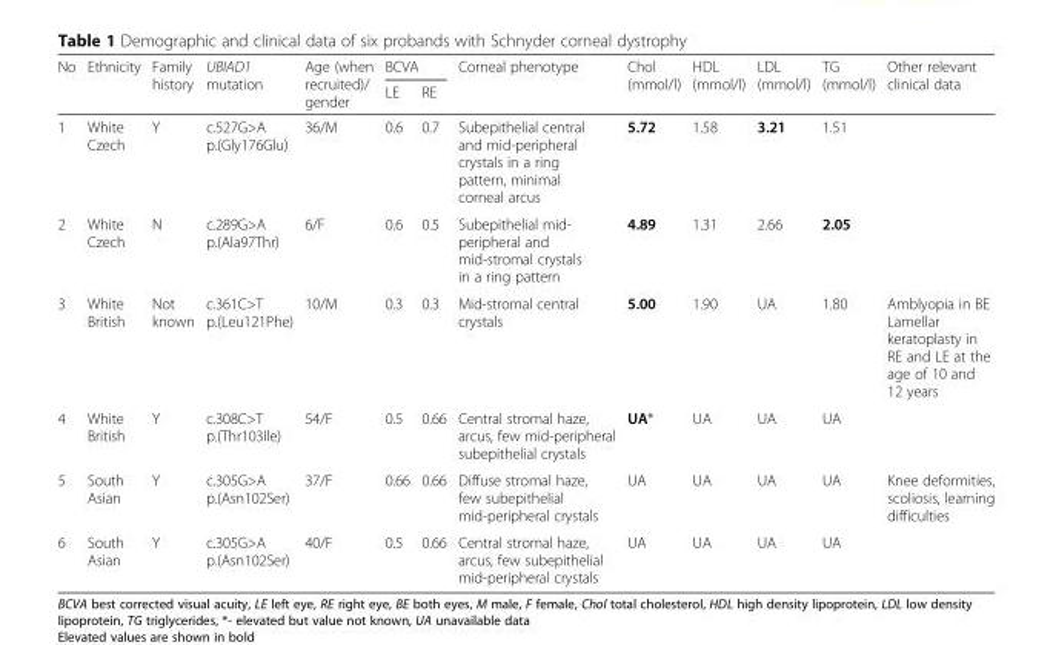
<table><thead><tr><td rowspan="2">No</td><td rowspan="2">Ethnicity</td><td rowspan="2">Family history</td><td rowspan="2">UBIAD1 mutation</td><td rowspan="2">Age (when recruited)/ gender</td><td colspan="2">BCVA</td><td rowspan="2">Corneal phenotype</td><td rowspan="2">Chol (mmol/l)</td><td rowspan="2">HDL (mmol/l)</td><td rowspan="2">LDL (mmol/l)</td><td rowspan="2">TG (mmol/l)</td><td rowspan="2">Other relevant clinical data</td></tr><tr><td>LE</td><td>RE</td></tr></thead><tbody><tr><td>1</td><td>White Czech</td><td>Y</td><td>c.527G&gt;A p.(Gly176Glu)</td><td>36/M</td><td>0.6</td><td>0.7</td><td>Subepithelial central and mid-peripheral crystals in a ring pattern, minimal corneal arcus</td><td>5.72</td><td>1.58</td><td>3.21</td><td>1.51</td><td></td></tr><tr><td>2</td><td>White Czech</td><td>N</td><td>c.289G&gt;A p.(Ala97Thr)</td><td>6/F</td><td>0.6</td><td>0.5</td><td>Subepithelial mid- peripheral and mid-stromal crystals in a ring pattern</td><td>4.89</td><td>1.31</td><td>2.66</td><td>2.05</td><td></td></tr><tr><td>3</td><td>White British</td><td>Not known</td><td>c.361C&gt;T p.(Leu121Phe)</td><td>10/M</td><td>0.3</td><td>0.3</td><td>Mid-stromal central crystals</td><td>5.00</td><td>1.90</td><td>UA</td><td>1.80</td><td>Amblyopia in BE Lamellar keratoplasty in RE and LE at the age of 10 and 12 years</td></tr><tr><td>4</td><td>White British</td><td>Y</td><td>c.308C&gt;T p.(Thr103Ile)</td><td>54/F</td><td>0.5</td><td>0.66</td><td>Central stromal haze, arcus, few mid-peripheral subepithelial crystals</td><td>UA*</td><td>UA</td><td>UA</td><td>UA</td><td></td></tr><tr><td>5</td><td>South Asian</td><td>Y</td><td>c.305G&gt;A p.(Asn102Ser)</td><td>37/F</td><td>0.66</td><td>0.66</td><td>Diffuse stromal haze, few subepithelial mid-peripheral crystals</td><td>UA</td><td>UA</td><td>UA</td><td>UA</td><td>Knee deformities, scoliosis, learning difficulties</td></tr><tr><td>6</td><td>South Asian</td><td>Y</td><td>c.305G&gt;A p.(Asn102Ser)</td><td>40/F</td><td>0.5</td><td>0.66</td><td>Central stromal haze, arcus, few subepithelial mid-peripheral crystals</td><td>UA</td><td>UA</td><td>UA</td><td>UA</td><td></td></tr></tbody></table>